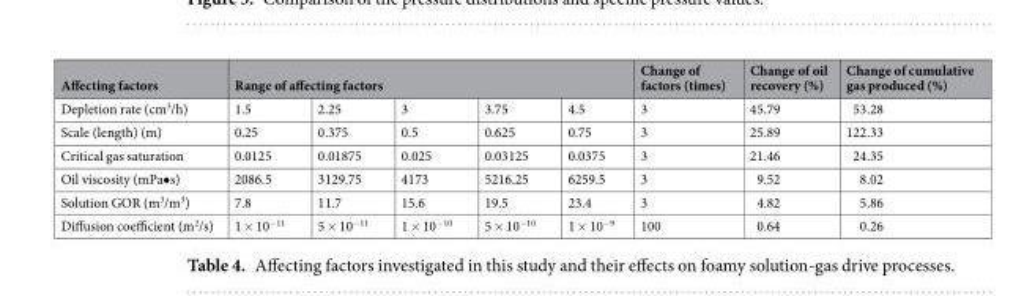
<table><thead><tr><td rowspan="2">Affecting factors Depletion rate (cm<sup>3</sup>/h)</td><td colspan="5">Range of affecting factors</td><td rowspan="2">Change of factors (times) 3</td><td rowspan="2">Change of oil recovery (%) 45.79</td><td rowspan="2">Change of cumulative gas produced (%) 53.28</td></tr><tr><td>1.5</td><td>2.25</td><td>3</td><td>3.75</td><td>4.5</td></tr></thead><tbody><tr><td>Scale (length) (m)</td><td>0.25</td><td>0.375</td><td>0.5</td><td>0.625</td><td>0.75</td><td>3</td><td>25.89</td><td>122.33</td></tr><tr><td>Critical gas saturation</td><td>0.0125</td><td>0.01875</td><td>0.025</td><td>0.03125</td><td>0.0375</td><td>3</td><td>21.46</td><td>24.35</td></tr><tr><td>Oil viscosity (mPa•s)</td><td>2086.5</td><td>3129.75</td><td>4173</td><td>5216.25</td><td>6259.5</td><td>3</td><td>9.52</td><td>8.02</td></tr><tr><td>Solution GOR (m<sup>3</sup>/m<sup>3</sup>)</td><td>7.8</td><td>11.7</td><td>15.6</td><td>19.5</td><td>23.4</td><td>3</td><td>4.82</td><td>5.86</td></tr><tr><td>Diffusion coefficient (m<sup>2</sup>/s)</td><td>1 × 10<sup>−11</sup></td><td>5 × 10<sup>−11</sup></td><td>1 × 10<sup>−10</sup></td><td>5 × 10<sup>−10</sup></td><td>1 × 10<sup>−9</sup></td><td>100</td><td>0.64</td><td>0.26</td></tr></tbody></table>